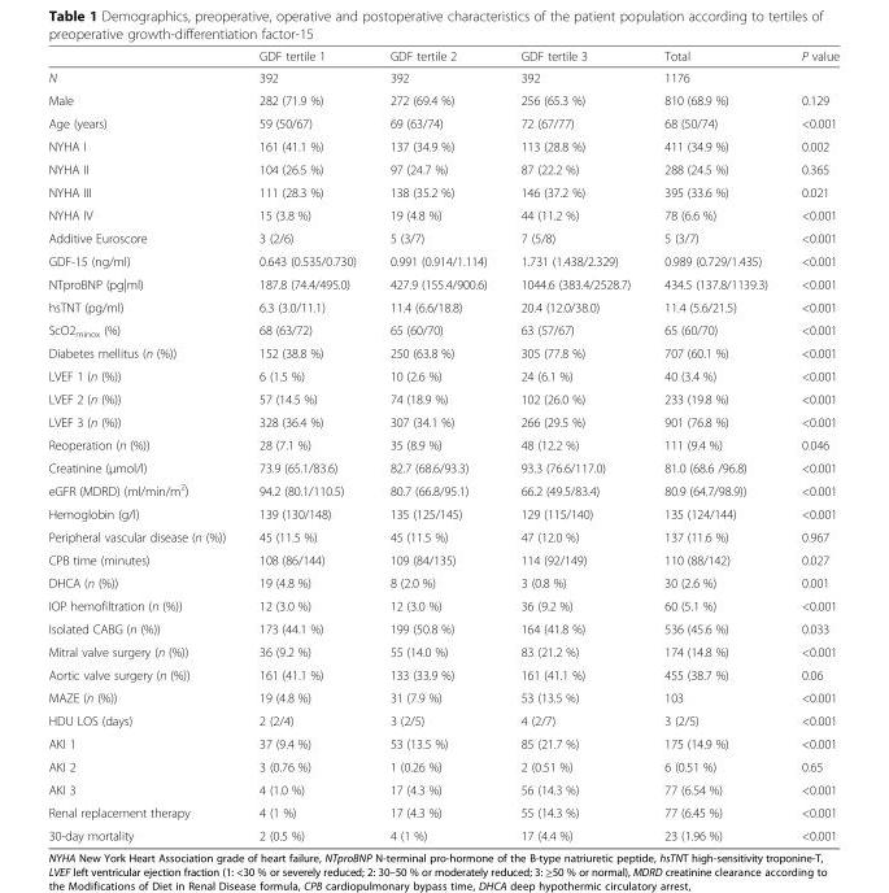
<table><thead><tr><td></td><td>GDF tertile 1</td><td>GDF tertile 2</td><td>GDF tertile 3</td><td>Total</td><td>P value</td></tr></thead><tbody><tr><td>N</td><td>392</td><td>392</td><td>392</td><td>1176</td><td></td></tr><tr><td>Male</td><td>282 (71.9 %)</td><td>272 (69.4 %)</td><td>256 (65.3 %)</td><td>810 (68.9 %)</td><td>0.129</td></tr><tr><td>Age (years)</td><td>59 (50/67)</td><td>69 (63/74)</td><td>72 (67/77)</td><td>68 (50/74)</td><td>&lt;0.001</td></tr><tr><td>NYHA I</td><td>161 (41.1 %)</td><td>137 (34.9 %)</td><td>113 (28.8 %)</td><td>411 (34.9 %)</td><td>0.002</td></tr><tr><td>NYHA II</td><td>104 (26.5 %)</td><td>97 (24.7 %)</td><td>87 (22.2 %)</td><td>288 (24.5 %)</td><td>0.365</td></tr><tr><td>NYHA III</td><td>111 (28.3 %)</td><td>138 (35.2 %)</td><td>146 (37.2 %)</td><td>395 (33.6 %)</td><td>0.021</td></tr><tr><td>NYHA IV</td><td>15 (3.8 %)</td><td>19 (4.8 %)</td><td>44 (11.2 %)</td><td>78 (6.6 %)</td><td>&lt;0.001</td></tr><tr><td>Additive Euroscore</td><td>3 (2/6)</td><td>5 (3/7)</td><td>7 (5/8)</td><td>5 (3/7)</td><td>&lt;0.001</td></tr><tr><td>GDF-15 (ng/ml)</td><td>0.643 (0.535/0.730)</td><td>0.991 (0.914/1.114)</td><td>1.731 (1.438/2.329)</td><td>0.989 (0.729/1.435)</td><td>&lt;0.001</td></tr><tr><td>NTproBNP (pg|ml)</td><td>187.8 (74.4/495.0)</td><td>427.9 (155.4/900.6)</td><td>1044.6 (383.4/2528.7)</td><td>434.5 (137.8/1139.3)</td><td>&lt;0.001</td></tr><tr><td>hsTNT (pg/ml)</td><td>6.3 (3.0/11.1)</td><td>11.4 (6.6/18.8)</td><td>20.4 (12.0/38.0)</td><td>11.4 (5.6/21.5)</td><td>&lt;0.001</td></tr><tr><td>ScO2<sub>minox</sub> (%)</td><td>68 (63/72)</td><td>65 (60/70)</td><td>63 (57/67)</td><td>65 (60/70)</td><td>&lt;0.001</td></tr><tr><td>Diabetes mellitus (n (%))</td><td>152 (38.8 %)</td><td>250 (63.8 %)</td><td>305 (77.8 %)</td><td>707 (60.1 %)</td><td>&lt;0.001</td></tr><tr><td>LVEF 1 (n (%))</td><td>6 (1.5 %)</td><td>10 (2.6 %)</td><td>24 (6.1 %)</td><td>40 (3.4 %)</td><td>&lt;0.001</td></tr><tr><td>LVEF 2 (n (%))</td><td>57 (14.5 %)</td><td>74 (18.9 %)</td><td>102 (26.0 %)</td><td>233 (19.8 %)</td><td>&lt;0.001</td></tr><tr><td>LVEF 3 (n (%))</td><td>328 (36.4 %)</td><td>307 (34.1 %)</td><td>266 (29.5 %)</td><td>901 (76.8 %)</td><td>&lt;0.001</td></tr><tr><td>Reoperation (n (%))</td><td>28 (7.1 %)</td><td>35 (8.9 %)</td><td>48 (12.2 %)</td><td>111 (9.4 %)</td><td>0.046</td></tr><tr><td>Creatinine (μmol/l)</td><td>73.9 (65.1/83.6)</td><td>82.7 (68.6/93.3)</td><td>93.3 (76.6/117.0)</td><td>81.0 (68.6 /96.8)</td><td>&lt;0.001</td></tr><tr><td>eGFR (MDRD) (ml/min/m<sup>2</sup>)</td><td>94.2 (80.1/110.5)</td><td>80.7 (66.8/95.1)</td><td>66.2 (49.5/83.4)</td><td>80.9 (64.7/98.9))</td><td>&lt;0.001</td></tr><tr><td>Hemoglobin (g/l)</td><td>139 (130/148)</td><td>135 (125/145)</td><td>129 (115/140)</td><td>135 (124/144)</td><td>&lt;0.001</td></tr><tr><td>Peripheral vascular disease (n (%))</td><td>45 (11.5 %)</td><td>45 (11.5 %)</td><td>47 (12.0 %)</td><td>137 (11.6 %)</td><td>0.967</td></tr><tr><td>CPB time (minutes)</td><td>108 (86/144)</td><td>109 (84/135)</td><td>114 (92/149)</td><td>110 (88/142)</td><td>0.027</td></tr><tr><td>DHCA (n (%))</td><td>19 (4.8 %)</td><td>8 (2.0 %)</td><td>3 (0.8 %)</td><td>30 (2.6 %)</td><td>0.001</td></tr><tr><td>IOP hemofiltration (n (%))</td><td>12 (3.0 %)</td><td>12 (3.0 %)</td><td>36 (9.2 %)</td><td>60 (5.1 %)</td><td>&lt;0.001</td></tr><tr><td>Isolated CABG (n (%))</td><td>173 (44.1 %)</td><td>199 (50.8 %)</td><td>164 (41.8 %)</td><td>536 (45.6 %)</td><td>0.033</td></tr><tr><td>Mitral valve surgery (n (%))</td><td>36 (9.2 %)</td><td>55 (14.0 %)</td><td>83 (21.2 %)</td><td>174 (14.8 %)</td><td>&lt;0.001</td></tr><tr><td>Aortic valve surgery (n (%))</td><td>161 (41.1 %)</td><td>133 (33.9 %)</td><td>161 (41.1 %)</td><td>455 (38.7 %)</td><td>0.06</td></tr><tr><td>MAZE (n (%))</td><td>19 (4.8 %)</td><td>31 (7.9 %)</td><td>53 (13.5 %)</td><td>103</td><td>&lt;0.001</td></tr><tr><td>HDU LOS (days)</td><td>2 (2/4)</td><td>3 (2/5)</td><td>4 (2/7)</td><td>3 (2/5)</td><td>&lt;0.001</td></tr><tr><td>AKI 1</td><td>37 (9.4 %)</td><td>53 (13.5 %)</td><td>85 (21.7 %)</td><td>175 (14.9 %)</td><td>&lt;0.001</td></tr><tr><td>AKI 2</td><td>3 (0.76 %)</td><td>1 (0.26 %)</td><td>2 (0.51 %)</td><td>6 (0.51 %)</td><td>0.65</td></tr><tr><td>AKI 3</td><td>4 (1.0 %)</td><td>17 (4.3 %)</td><td>56 (14.3 %)</td><td>77 (6.54 %)</td><td>&lt;0.001</td></tr><tr><td>Renal replacement therapy</td><td>4 (1 %)</td><td>17 (4.3 %)</td><td>55 (14.3 %)</td><td>77 (6.45 %)</td><td>&lt;0.001</td></tr><tr><td>30-day mortality</td><td>2 (0.5 %)</td><td>4 (1 %)</td><td>17 (4.4 %)</td><td>23 (1.96 %)</td><td>&lt;0.001</td></tr></tbody></table>